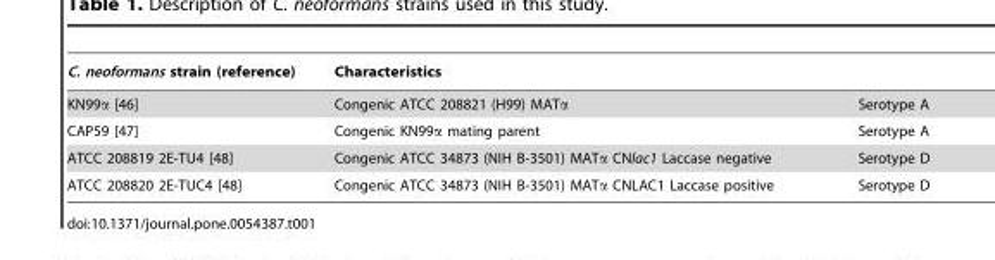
<table><thead><tr><td rowspan="2">C. neoformans strain (reference) KN99α [46]</td><td colspan="2">Characteristics</td></tr><tr><td>Congenic ATCC 208821 (H99) MATα</td><td>Serotype A</td></tr></thead><tbody><tr><td>CAP59 [47]</td><td>Congenic KN99α mating parent</td><td>Serotype A</td></tr><tr><td>ATCC 208819 2E-TU4 [48]</td><td>Congenic ATCC 34873 (NIH B-3501) MATα CNlac1 Laccase negative</td><td>Serotype D</td></tr><tr><td>ATCC 208820 2E-TUC4 [48]</td><td>Congenic ATCC 34873 (NIH B-3501) MATα CNLAC1 Laccase positive</td><td>Serotype D</td></tr></tbody></table>